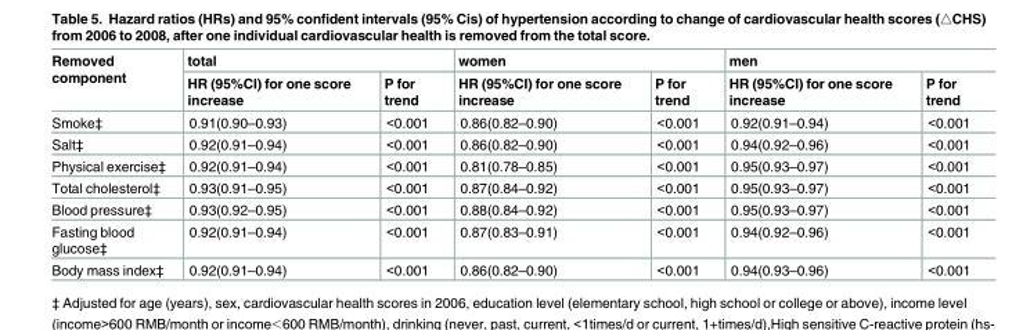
<table><thead><tr><td rowspan="2">Removed component</td><td colspan="2">total</td><td colspan="2">women</td><td colspan="2">men</td></tr><tr><td>HR (95%CI) for one score increase</td><td>P for trend</td><td>HR (95%CI) for one score increase</td><td>P for trend</td><td>HR (95%CI) for one score increase</td><td>P for trend</td></tr></thead><tbody><tr><td>Smoke‡</td><td>0.91(0.90–0.93)</td><td>&lt;0.001</td><td>0.86(0.82–0.90)</td><td>&lt;0.001</td><td>0.92(0.91–0.94)</td><td>&lt;0.001</td></tr><tr><td>Salt‡</td><td>0.92(0.91–0.94)</td><td>&lt;0.001</td><td>0.86(0.82–0.90)</td><td>&lt;0.001</td><td>0.94(0.92–0.96)</td><td>&lt;0.001</td></tr><tr><td>Physical exercise‡</td><td>0.92(0.91–0.94)</td><td>&lt;0.001</td><td>0.81(0.78–0.85)</td><td>&lt;0.001</td><td>0.95(0.93–0.97)</td><td>&lt;0.001</td></tr><tr><td>Total cholesterol‡</td><td>0.93(0.91–0.95)</td><td>&lt;0.001</td><td>0.87(0.84–0.92)</td><td>&lt;0.001</td><td>0.95(0.93–0.97)</td><td>&lt;0.001</td></tr><tr><td>Blood pressure‡</td><td>0.93(0.92–0.95)</td><td>&lt;0.001</td><td>0.88(0.84–0.92)</td><td>&lt;0.001</td><td>0.95(0.93–0.97)</td><td>&lt;0.001</td></tr><tr><td>Fasting blood glucose‡</td><td>0.92(0.91–0.94)</td><td>&lt;0.001</td><td>0.87(0.83–0.91)</td><td>&lt;0.001</td><td>0.94(0.92–0.96)</td><td>&lt;0.001</td></tr><tr><td>Body mass index‡</td><td>0.92(0.91–0.94)</td><td>&lt;0.001</td><td>0.86(0.82–0.90)</td><td>&lt;0.001</td><td>0.94(0.93–0.96)</td><td>&lt;0.001</td></tr></tbody></table>